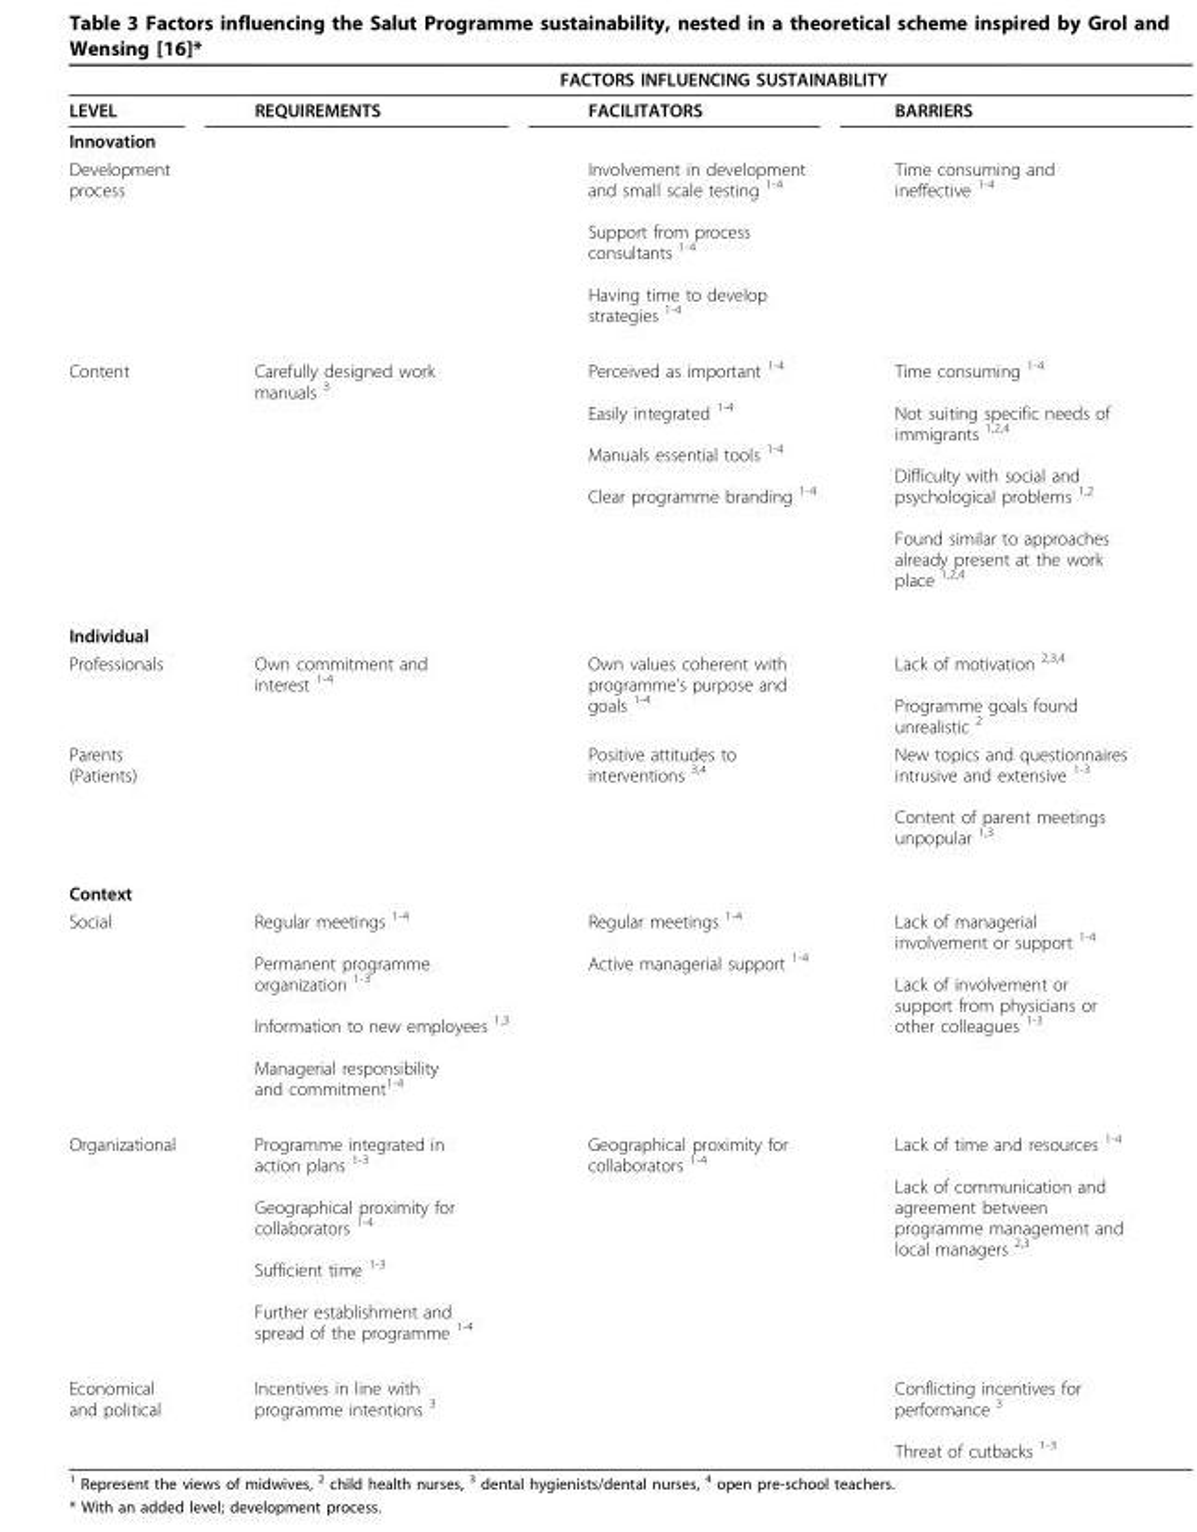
<table><thead><tr><td rowspan="2">LEVEL</td><td colspan="3">FACTORS INFLUENCING SUSTAINABILITY</td></tr><tr><td>REQUIREMENTS</td><td>FACILITATORS</td><td>BARRIERS</td></tr></thead><tbody><tr><td colspan="4">Innovation</td></tr><tr><td>Development process</td><td></td><td>Involvement in development and small scale testing <sup>1-4</sup> Support from process consultants <sup>1-4</sup> Having time to develop strategies <sup>1-4</sup></td><td>Time consuming and ineffective <sup>1-4</sup></td></tr><tr><td>Content</td><td>Carefully designed work manuals <sup>3</sup></td><td>Perceived as important <sup>1-4</sup> Easily integrated <sup>1-4</sup> Manuals essential tools <sup>1-4</sup> Clear programme branding <sup>1-4</sup></td><td>Time consuming <sup>1-4</sup> Not suiting specific needs of immigrants <sup>1,2,4</sup> Difficulty with social and psychological problems <sup>1,2</sup> Found similar to approaches already present at the work place <sup>1,2,4</sup></td></tr><tr><td colspan="4">Individual</td></tr><tr><td>Professionals</td><td>Own commitment and interest <sup>1-4</sup></td><td>Own values coherent with programme’s purpose and goals <sup>1-4</sup></td><td>Lack of motivation <sup>2,3,4</sup> Programme goals found unrealistic <sup>2</sup></td></tr><tr><td>Parents (Patients)</td><td></td><td>Positive attitudes to interventions <sup>3,4</sup></td><td>New topics and questionnaires intrusive and extensive <sup>1-3</sup> Content of parent meetings unpopular <sup>1,3</sup></td></tr><tr><td colspan="4">Context</td></tr><tr><td>Social</td><td>Regular meetings <sup>1-4</sup> Permanent programme organization <sup>1-3</sup> Information to new employees <sup>1,3</sup> Managerial responsibility and commitment<sup>1-4</sup></td><td>Regular meetings <sup>1-4</sup> Active managerial support <sup>1-4</sup></td><td>Lack of managerial involvement or support <sup>1-4</sup> Lack of involvement or support from physicians or other colleagues <sup>1-3</sup></td></tr><tr><td>Organizational</td><td>Programme integrated in action plans <sup>1-3</sup> Geographical proximity for collaborators <sup>1-4</sup> Sufficient time <sup>1-3</sup> Further establishment and spread of the programme <sup>1-4</sup></td><td>Geographical proximity for collaborators <sup>1-4</sup></td><td>Lack of time and resources <sup>1-4</sup> Lack of communication and agreement between programme management and local managers <sup>2,3</sup></td></tr><tr><td>Economical and political</td><td>Incentives in line with programme intentions <sup>3</sup></td><td></td><td>Conflicting incentives for performance <sup>3</sup> Threat of cutbacks <sup>1-3</sup></td></tr></tbody></table>